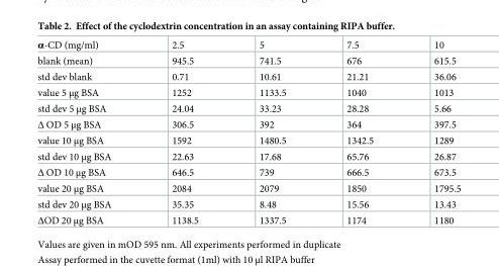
<table><tbody><tr><td>α-CD (mg/ml)</td><td>2.5</td><td>5</td><td>7.5</td><td>10</td></tr><tr><td>blank (mean)</td><td>945.5</td><td>741.5</td><td>676</td><td>615.5</td></tr><tr><td>std dev blank</td><td>0.71</td><td>10.61</td><td>21.21</td><td>36.06</td></tr><tr><td>value 5 μg BSA</td><td>1252</td><td>1133.5</td><td>1040</td><td>1013</td></tr><tr><td>std dev 5 μg BSA</td><td>24.04</td><td>33.23</td><td>28.28</td><td>5.66</td></tr><tr><td>Δ OD 5 μg BSA</td><td>306.5</td><td>392</td><td>364</td><td>397.5</td></tr><tr><td>value 10 μg BSA</td><td>1592</td><td>1480.5</td><td>1342.5</td><td>1289</td></tr><tr><td>std dev 10 μg BSA</td><td>22.63</td><td>17.68</td><td>65.76</td><td>26.87</td></tr><tr><td>Δ OD 10 μg BSA</td><td>646.5</td><td>739</td><td>666.5</td><td>673.5</td></tr><tr><td>value 20 μg BSA</td><td>2084</td><td>2079</td><td>1850</td><td>1795.5</td></tr><tr><td>std dev 20 μg BSA</td><td>35.35</td><td>8.48</td><td>15.56</td><td>13.43</td></tr><tr><td>ΔOD 20 μg BSA</td><td>1138.5</td><td>1337.5</td><td>1174</td><td>1180</td></tr></tbody></table>